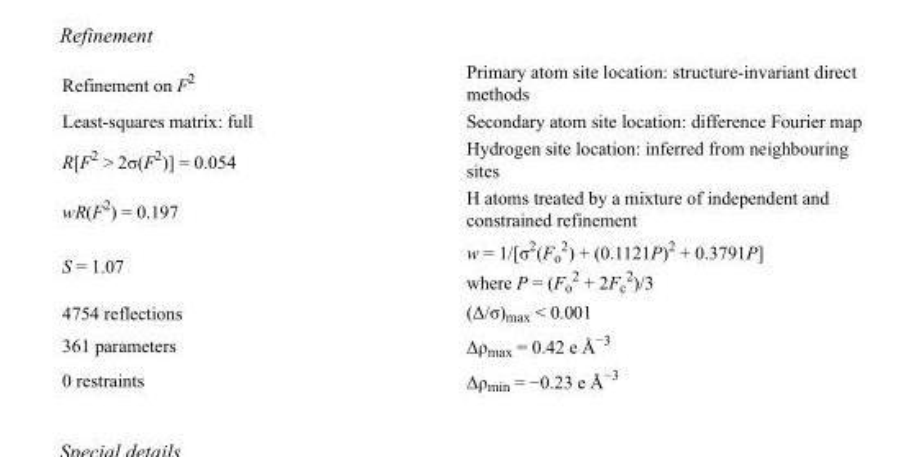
<table><tbody><tr><td>Refinement on F<sup>2</sup></td><td>Primary atom site location: structure-invariant direct methods</td></tr><tr><td>Least-squares matrix: full</td><td>Secondary atom site location: difference Fourier map</td></tr><tr><td>R[F<sup>2</sup> &gt; 2σ(F<sup>2</sup>)] = 0.054</td><td>Hydrogen site location: inferred from neighbouring sites</td></tr><tr><td>wR(F<sup>2</sup>) = 0.197</td><td>H atoms treated by a mixture of independent and constrained refinement</td></tr><tr><td>S = 1.07</td><td>w = 1/[σ<sup>2</sup>(F<sub>o</sub> <sup>2</sup>) + (0.1121P)<sup>2</sup> + 0.3791P] where P = (F<sub>o</sub> <sup>2</sup> + 2F<sub>c</sub> <sup>2</sup>)/3</td></tr><tr><td>4754 reflections</td><td>(Δ/σ)<sub>max</sub> &lt; 0.001</td></tr><tr><td>361 parameters</td><td>Δρ<sub>max</sub> = 0.42 e Å<sup>−3</sup></td></tr><tr><td>0 restraints</td><td>Δρ<sub>min</sub> = −0.23 e Å<sup>−3</sup></td></tr></tbody></table>